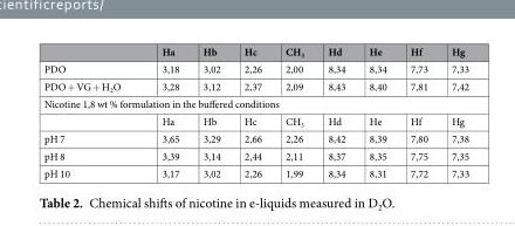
<table><thead><tr><td></td><td>Ha</td><td>Hb</td><td>Hc</td><td>CH<sub>3</sub></td><td>Hd</td><td>He</td><td>Hf</td><td>Hg</td></tr></thead><tbody><tr><td>PDO</td><td>3,18</td><td>3,02</td><td>2,26</td><td>2,00</td><td>8,34</td><td>8,34</td><td>7,73</td><td>7,33</td></tr><tr><td>PDO + VG + H<sub>2</sub>O</td><td>3,28</td><td>3,12</td><td>2,37</td><td>2,09</td><td>8,43</td><td>8,40</td><td>7,81</td><td>7,42</td></tr><tr><td colspan="9">Nicotine 1,8 wt % formulation in the buffered conditions</td></tr><tr><td></td><td>Ha</td><td>Hb</td><td>Hc</td><td>CH<sub>3</sub></td><td>Hd</td><td>He</td><td>Hf</td><td>Hg</td></tr><tr><td>pH 7</td><td>3,65</td><td>3,29</td><td>2,66</td><td>2,26</td><td>8,42</td><td>8,39</td><td>7,80</td><td>7,38</td></tr><tr><td>pH 8</td><td>3,39</td><td>3,14</td><td>2,44</td><td>2,11</td><td>8,37</td><td>8,35</td><td>7,75</td><td>7,35</td></tr><tr><td>pH 10</td><td>3,17</td><td>3,02</td><td>2,26</td><td>1,99</td><td>8,34</td><td>8,31</td><td>7,72</td><td>7,33</td></tr></tbody></table>